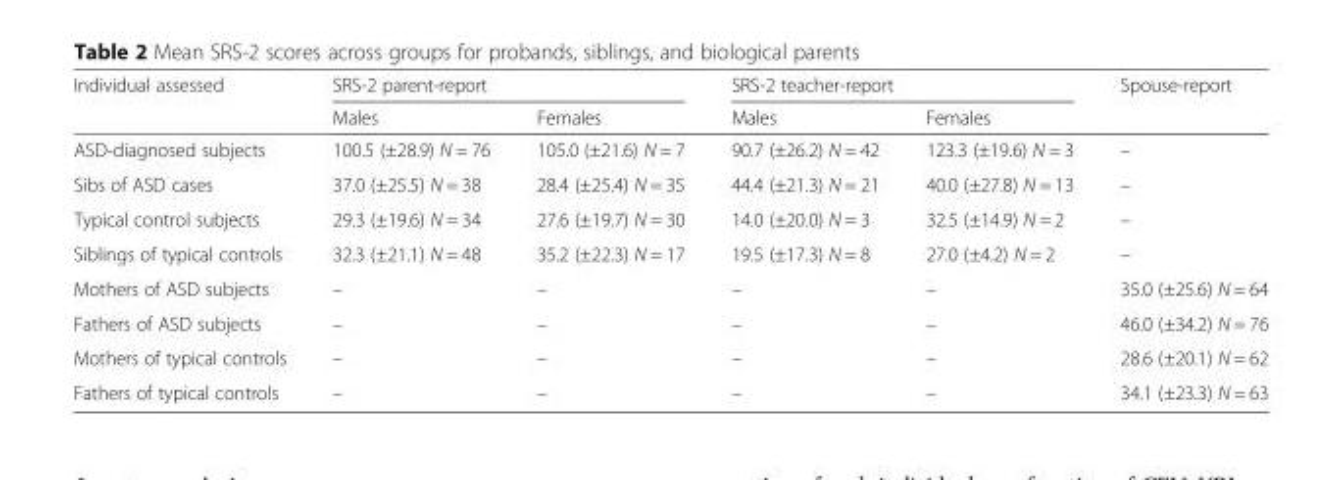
<table><thead><tr><td rowspan="2">Individual assessed</td><td colspan="2">SRS-2 parent-report</td><td colspan="2">SRS-2 teacher-report</td><td rowspan="2">Spouse-report</td></tr><tr><td>Males</td><td>Females</td><td>Males</td><td>Females</td></tr></thead><tbody><tr><td>ASD-diagnosed subjects</td><td>100.5 (±28.9) N = 76</td><td>105.0 (±21.6) N = 7</td><td>90.7 (±26.2) N = 42</td><td>123.3 (±19.6) N = 3</td><td>–</td></tr><tr><td>Sibs of ASD cases</td><td>37.0 (±25.5) N = 38</td><td>28.4 (±25.4) N = 35</td><td>44.4 (±21.3) N = 21</td><td>40.0 (±27.8) N = 13</td><td>–</td></tr><tr><td>Typical control subjects</td><td>29.3 (±19.6) N = 34</td><td>27.6 (±19.7) N = 30</td><td>14.0 (±20.0) N = 3</td><td>32.5 (±14.9) N = 2</td><td>–</td></tr><tr><td>Siblings of typical controls</td><td>32.3 (±21.1) N = 48</td><td>35.2 (±22.3) N = 17</td><td>19.5 (±17.3) N = 8</td><td>27.0 (±4.2) N = 2</td><td>–</td></tr><tr><td>Mothers of ASD subjects</td><td>–</td><td>–</td><td>–</td><td>–</td><td>35.0 (±25.6) N = 64</td></tr><tr><td>Fathers of ASD subjects</td><td>–</td><td>–</td><td>–</td><td>–</td><td>46.0 (±34.2) N = 76</td></tr><tr><td>Mothers of typical controls</td><td>–</td><td>–</td><td>–</td><td>–</td><td>28.6 (±20.1) N = 62</td></tr><tr><td>Fathers of typical controls</td><td>–</td><td>–</td><td>–</td><td>–</td><td>34.1 (±23.3) N = 63</td></tr></tbody></table>